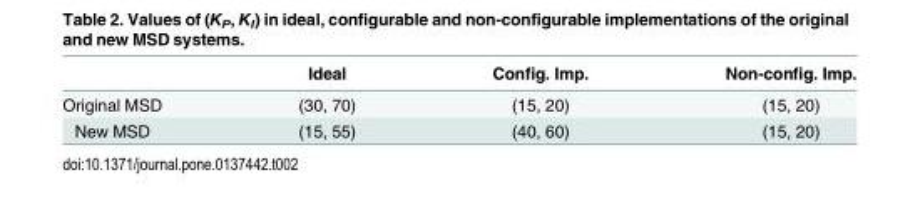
<table><thead><tr><td></td><td>Ideal</td><td>Config. Imp.</td><td>Non-config. Imp.</td></tr></thead><tbody><tr><td>Original MSD</td><td>(30, 70)</td><td>(15, 20)</td><td>(15, 20)</td></tr><tr><td>New MSD</td><td>(15, 55)</td><td>(40, 60)</td><td>(15, 20)</td></tr></tbody></table>